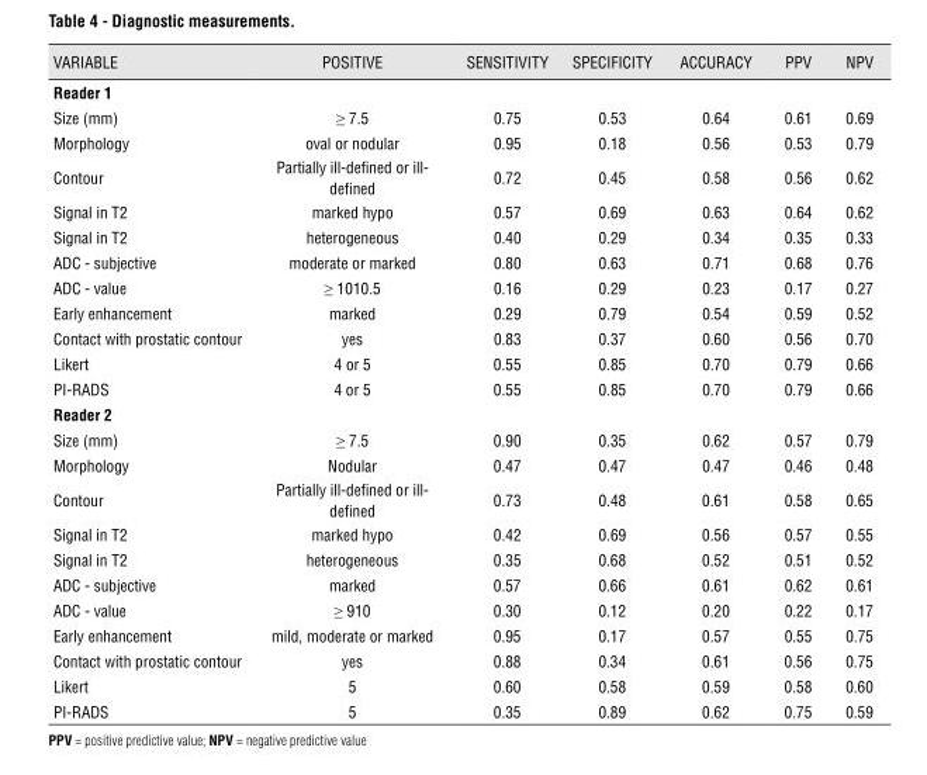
<table><thead><tr><td>VARIABLE</td><td>POSITIVE</td><td>SENSITIVITY</td><td>SPECIFICITY</td><td>ACCURACY</td><td>PPV</td><td>NPV</td></tr></thead><tbody><tr><td colspan="7">Reader 1</td></tr><tr><td>Size (mm)</td><td>≥ 7.5</td><td>0.75</td><td>0.53</td><td>0.64</td><td>0.61</td><td>0.69</td></tr><tr><td>Morphology</td><td>oval or nodular</td><td>0.95</td><td>0.18</td><td>0.56</td><td>0.53</td><td>0.79</td></tr><tr><td>Contour</td><td>Partially ill-defined or ill- defined</td><td>0.72</td><td>0.45</td><td>0.58</td><td>0.56</td><td>0.62</td></tr><tr><td>Signal in T2</td><td>marked hypo</td><td>0.57</td><td>0.69</td><td>0.63</td><td>0.64</td><td>0.62</td></tr><tr><td>Signal in T2</td><td>heterogeneous</td><td>0.40</td><td>0.29</td><td>0.34</td><td>0.35</td><td>0.33</td></tr><tr><td>ADC - subjective</td><td>moderate or marked</td><td>0.80</td><td>0.63</td><td>0.71</td><td>0.68</td><td>0.76</td></tr><tr><td>ADC - value</td><td>≥ 1010.5</td><td>0.16</td><td>0.29</td><td>0.23</td><td>0.17</td><td>0.27</td></tr><tr><td>Early enhancement</td><td>marked</td><td>0.29</td><td>0.79</td><td>0.54</td><td>0.59</td><td>0.52</td></tr><tr><td>Contact with prostatic contour</td><td>yes</td><td>0.83</td><td>0.37</td><td>0.60</td><td>0.56</td><td>0.70</td></tr><tr><td>Likert</td><td>4 or 5</td><td>0.55</td><td>0.85</td><td>0.70</td><td>0.79</td><td>0.66</td></tr><tr><td>PI-RADS</td><td>4 or 5</td><td>0.55</td><td>0.85</td><td>0.70</td><td>0.79</td><td>0.66</td></tr><tr><td colspan="7">Reader 2</td></tr><tr><td>Size (mm)</td><td>≥ 7.5</td><td>0.90</td><td>0.35</td><td>0.62</td><td>0.57</td><td>0.79</td></tr><tr><td>Morphology</td><td>Nodular</td><td>0.47</td><td>0.47</td><td>0.47</td><td>0.46</td><td>0.48</td></tr><tr><td>Contour</td><td>Partially ill-defined or ill- defined</td><td>0.73</td><td>0.48</td><td>0.61</td><td>0.58</td><td>0.65</td></tr><tr><td>Signal in T2</td><td>marked hypo</td><td>0.42</td><td>0.69</td><td>0.56</td><td>0.57</td><td>0.55</td></tr><tr><td>Signal in T2</td><td>heterogeneous</td><td>0.35</td><td>0.68</td><td>0.52</td><td>0.51</td><td>0.52</td></tr><tr><td>ADC - subjective</td><td>marked</td><td>0.57</td><td>0.66</td><td>0.61</td><td>0.62</td><td>0.61</td></tr><tr><td>ADC - value</td><td>≥ 910</td><td>0.30</td><td>0.12</td><td>0.20</td><td>0.22</td><td>0.17</td></tr><tr><td>Early enhancement</td><td>mild, moderate or marked</td><td>0.95</td><td>0.17</td><td>0.57</td><td>0.55</td><td>0.75</td></tr><tr><td>Contact with prostatic contour</td><td>yes</td><td>0.88</td><td>0.34</td><td>0.61</td><td>0.56</td><td>0.75</td></tr><tr><td>Likert</td><td>5</td><td>0.60</td><td>0.58</td><td>0.59</td><td>0.58</td><td>0.60</td></tr><tr><td>PI-RADS</td><td>5</td><td>0.35</td><td>0.89</td><td>0.62</td><td>0.75</td><td>0.59</td></tr></tbody></table>